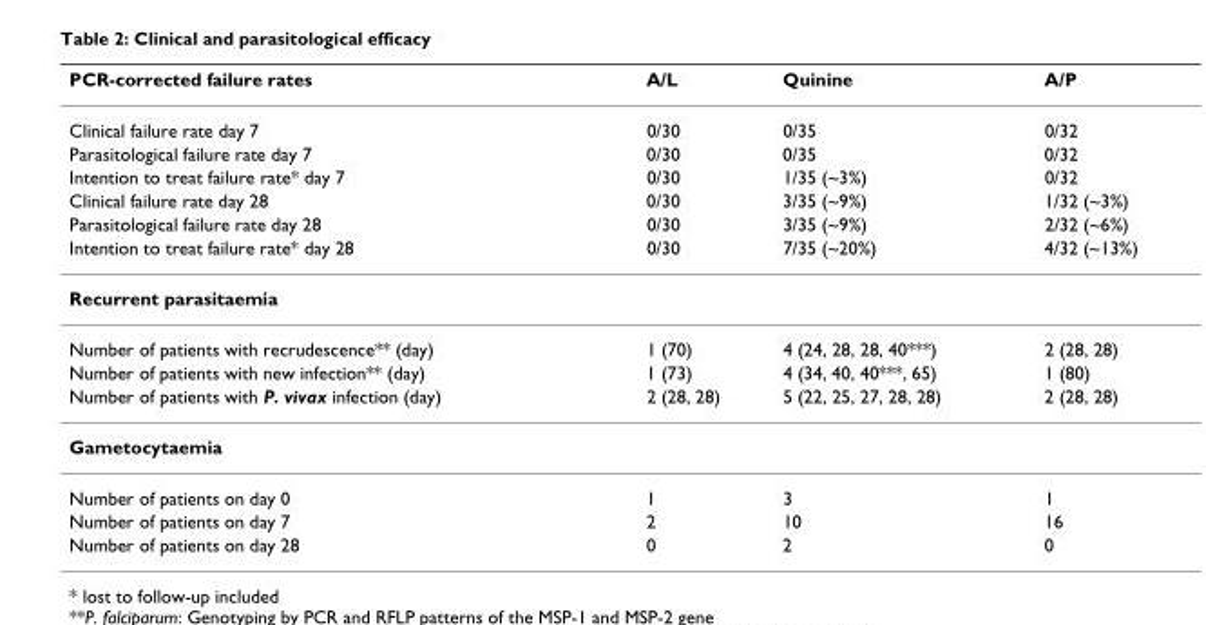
<table><thead><tr><td>PCR-corrected failure rates</td><td>A/L</td><td>Quinine</td><td>A/P</td></tr></thead><tbody><tr><td>Clinical failure rate day 7</td><td>0/30</td><td>0/35</td><td>0/32</td></tr><tr><td>Parasitological failure rate day 7</td><td>0/30</td><td>0/35</td><td>0/32</td></tr><tr><td>Intention to treat failure rate* day 7</td><td>0/30</td><td>1/35 (~3%)</td><td>0/32</td></tr><tr><td>Clinical failure rate day 28</td><td>0/30</td><td>3/35 (~9%)</td><td>1/32 (~3%)</td></tr><tr><td>Parasitological failure rate day 28</td><td>0/30</td><td>3/35 (~9%)</td><td>2/32 (~6%)</td></tr><tr><td>Intention to treat failure rate* day 28</td><td>0/30</td><td>7/35 (~20%)</td><td>4/32 (~13%)</td></tr><tr><td colspan="4">Recurrent parasitaemia</td></tr><tr><td>Number of patients with recrudescence** (day)</td><td>1 (70)</td><td>4 (24, 28, 28, 40***)</td><td>2 (28, 28)</td></tr><tr><td>Number of patients with new infection** (day)</td><td>1 (73)</td><td>4 (34, 40, 40***, 65)</td><td>1 (80)</td></tr><tr><td>Number of patients with P. vivax infection (day)</td><td>2 (28, 28)</td><td>5 (22, 25, 27, 28, 28)</td><td>2 (28, 28)</td></tr><tr><td colspan="4">Gametocytaemia</td></tr><tr><td>Number of patients on day 0</td><td>1</td><td>3</td><td>1</td></tr><tr><td>Number of patients on day 7</td><td>2</td><td>10</td><td>16</td></tr><tr><td>Number of patients on day 28</td><td>0</td><td>2</td><td>0</td></tr></tbody></table>